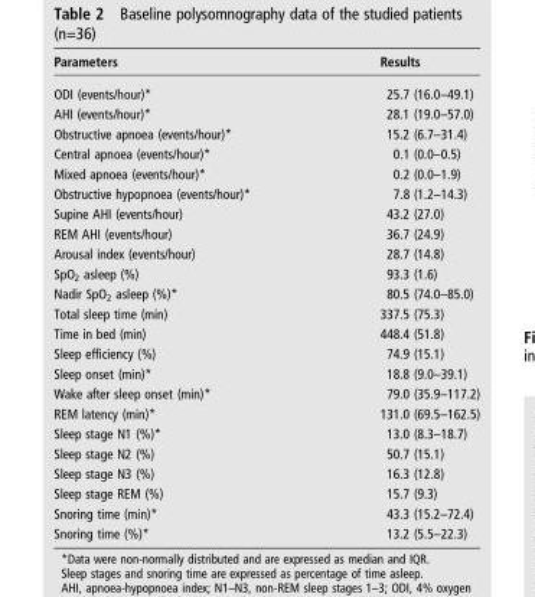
<table><thead><tr><td>Parameters</td><td>Results</td></tr></thead><tbody><tr><td>ODI (events/hour)*</td><td>25.7 (16.0–49.1)</td></tr><tr><td>AHI (events/hour)*</td><td>28.1 (19.0–57.0)</td></tr><tr><td>Obstructive apnoea (events/hour)*</td><td>15.2 (6.7–31.4)</td></tr><tr><td>Central apnoea (events/hour)*</td><td>0.1 (0.0–0.5)</td></tr><tr><td>Mixed apnoea (events/hour)*</td><td>0.2 (0.0–1.9)</td></tr><tr><td>Obstructive hypopnoea (events/hour)*</td><td>7.8 (1.2–14.3)</td></tr><tr><td>Supine AHI (events/hour)</td><td>43.2 (27.0)</td></tr><tr><td>REM AHI (events/hour)</td><td>36.7 (24.9)</td></tr><tr><td>Arousal index (events/hour)</td><td>28.7 (14.8)</td></tr><tr><td>SpO<sub>2</sub> asleep (%)</td><td>93.3 (1.6)</td></tr><tr><td>Nadir SpO<sub>2</sub> asleep (%)*</td><td>80.5 (74.0–85.0)</td></tr><tr><td>Total sleep time (min)</td><td>337.5 (75.3)</td></tr><tr><td>Time in bed (min)</td><td>448.4 (51.8)</td></tr><tr><td>Sleep efficiency (%)</td><td>74.9 (15.1)</td></tr><tr><td>Sleep onset (min)*</td><td>18.8 (9.0–39.1)</td></tr><tr><td>Wake after sleep onset (min)*</td><td>79.0 (35.9–117.2)</td></tr><tr><td>REM latency (min)*</td><td>131.0 (69.5–162.5)</td></tr><tr><td>Sleep stage N1 (%)*</td><td>13.0 (8.3–18.7)</td></tr><tr><td>Sleep stage N2 (%)</td><td>50.7 (15.1)</td></tr><tr><td>Sleep stage N3 (%)</td><td>16.3 (12.8)</td></tr><tr><td>Sleep stage REM (%)</td><td>15.7 (9.3)</td></tr><tr><td>Snoring time (min)*</td><td>43.3 (15.2–72.4)</td></tr><tr><td>Snoring time (%)*</td><td>13.2 (5.5–22.3)</td></tr></tbody></table>